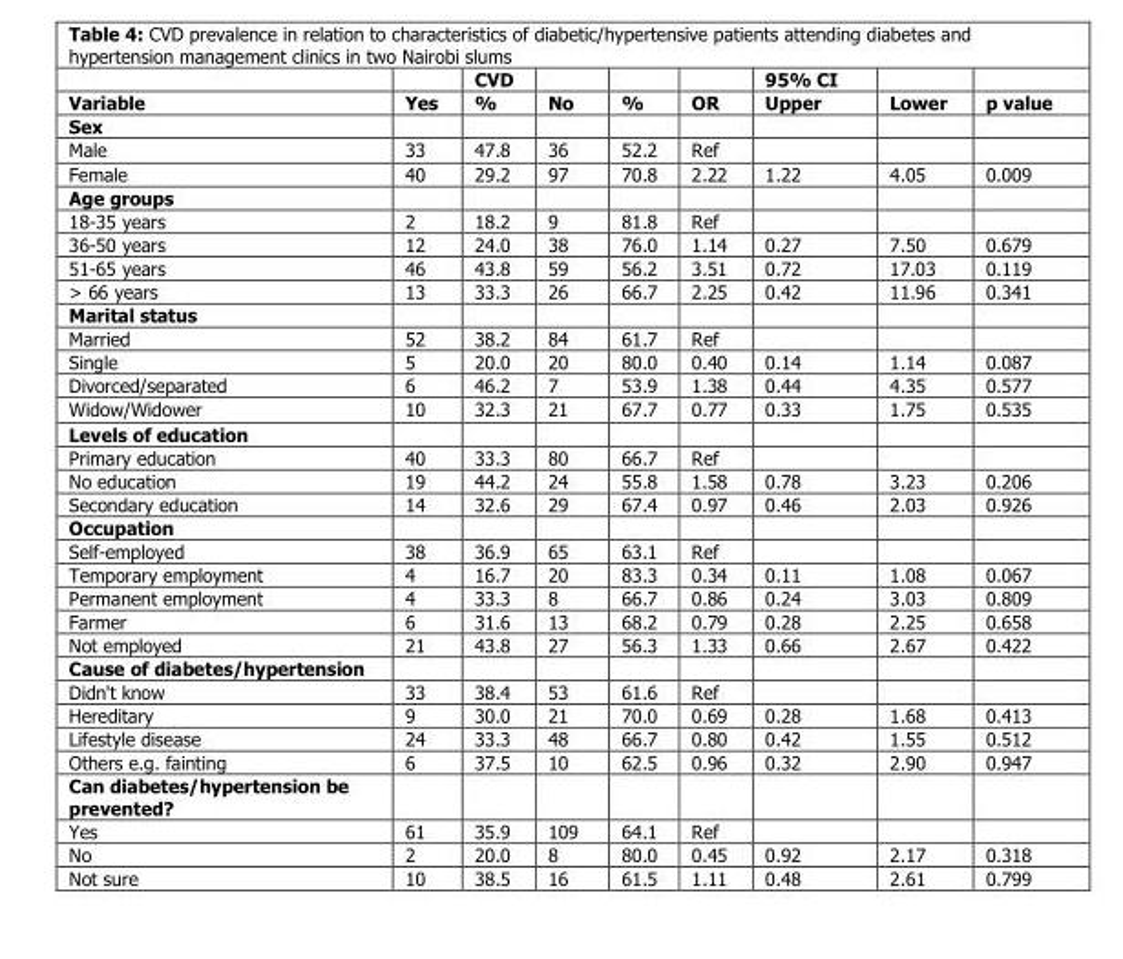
<table><thead><tr><td rowspan="2">Variable</td><td rowspan="2">Yes</td><td rowspan="2">CVD %</td><td rowspan="2">No</td><td rowspan="2">%</td><td rowspan="2">OR</td><td rowspan="2">95% CI Upper</td><td rowspan="2">Lower</td><td rowspan="2">p value</td></tr><tr></tr></thead><tbody><tr><td colspan="9">Sex</td></tr><tr><td>Male</td><td>33</td><td>47.8</td><td>36</td><td>52.2</td><td>Ref</td><td></td><td></td><td></td></tr><tr><td>Female</td><td>40</td><td>29.2</td><td>97</td><td>70.8</td><td>2.22</td><td>1.22</td><td>4.05</td><td>0.009</td></tr><tr><td colspan="9">Age groups</td></tr><tr><td>18-35 years</td><td>2</td><td>18.2</td><td>9</td><td>81.8</td><td>Ref</td><td></td><td></td><td></td></tr><tr><td>36-50 years</td><td>12</td><td>24.0</td><td>38</td><td>76.0</td><td>1.14</td><td>0.27</td><td>7.50</td><td>0.679</td></tr><tr><td>51-65 years</td><td>46</td><td>43.8</td><td>59</td><td>56.2</td><td>3.51</td><td>0.72</td><td>17.03</td><td>0.119</td></tr><tr><td>&gt; 66 years</td><td>13</td><td>33.3</td><td>26</td><td>66.7</td><td>2.25</td><td>0.42</td><td>11.96</td><td>0.341</td></tr><tr><td colspan="9">Marital status</td></tr><tr><td>Married</td><td>52</td><td>38.2</td><td>84</td><td>61.7</td><td>Ref</td><td></td><td></td><td></td></tr><tr><td>Single</td><td>5</td><td>20.0</td><td>20</td><td>80.0</td><td>0.40</td><td>0.14</td><td>1.14</td><td>0.087</td></tr><tr><td>Divorced/separated</td><td>6</td><td>46.2</td><td>7</td><td>53.9</td><td>1.38</td><td>0.44</td><td>4.35</td><td>0.577</td></tr><tr><td>Widow/Widower</td><td>10</td><td>32.3</td><td>21</td><td>67.7</td><td>0.77</td><td>0.33</td><td>1.75</td><td>0.535</td></tr><tr><td colspan="9">Levels of education</td></tr><tr><td>Primary education</td><td>40</td><td>33.3</td><td>80</td><td>66.7</td><td>Ref</td><td></td><td></td><td></td></tr><tr><td>No education</td><td>19</td><td>44.2</td><td>24</td><td>55.8</td><td>1.58</td><td>0.78</td><td>3.23</td><td>0.206</td></tr><tr><td>Secondary education</td><td>14</td><td>32.6</td><td>29</td><td>67.4</td><td>0.97</td><td>0.46</td><td>2.03</td><td>0.926</td></tr><tr><td colspan="9">Occupation</td></tr><tr><td>Self-employed</td><td>38</td><td>36.9</td><td>65</td><td>63.1</td><td>Ref</td><td></td><td></td><td></td></tr><tr><td>Temporary employment</td><td>4</td><td>16.7</td><td>20</td><td>83.3</td><td>0.34</td><td>0.11</td><td>1.08</td><td>0.067</td></tr><tr><td>Permanent employment</td><td>4</td><td>33.3</td><td>8</td><td>66.7</td><td>0.86</td><td>0.24</td><td>3.03</td><td>0.809</td></tr><tr><td>Farmer</td><td>6</td><td>31.6</td><td>13</td><td>68.2</td><td>0.79</td><td>0.28</td><td>2.25</td><td>0.658</td></tr><tr><td>Not employed</td><td>21</td><td>43.8</td><td>27</td><td>56.3</td><td>1.33</td><td>0.66</td><td>2.67</td><td>0.422</td></tr><tr><td colspan="9">Cause of diabetes/hypertension</td></tr><tr><td>Didn&#x27;t know</td><td>33</td><td>38.4</td><td>53</td><td>61.6</td><td>Ref</td><td></td><td></td><td></td></tr><tr><td>Hereditary</td><td>9</td><td>30.0</td><td>21</td><td>70.0</td><td>0.69</td><td>0.28</td><td>1.68</td><td>0.413</td></tr><tr><td>Lifestyle disease</td><td>24</td><td>33.3</td><td>48</td><td>66.7</td><td>0.80</td><td>0.42</td><td>1.55</td><td>0.512</td></tr><tr><td>Others e.g. fainting</td><td>6</td><td>37.5</td><td>10</td><td>62.5</td><td>0.96</td><td>0.32</td><td>2.90</td><td>0.947</td></tr><tr><td colspan="9">Can diabetes/hypertension be prevented?</td></tr><tr><td>Yes</td><td>61</td><td>35.9</td><td>109</td><td>64.1</td><td>Ref</td><td></td><td></td><td></td></tr><tr><td>No</td><td>2</td><td>20.0</td><td>8</td><td>80.0</td><td>0.45</td><td>0.92</td><td>2.17</td><td>0.318</td></tr><tr><td>Not sure</td><td>10</td><td>38.5</td><td>16</td><td>61.5</td><td>1.11</td><td>0.48</td><td>2.61</td><td>0.799</td></tr></tbody></table>